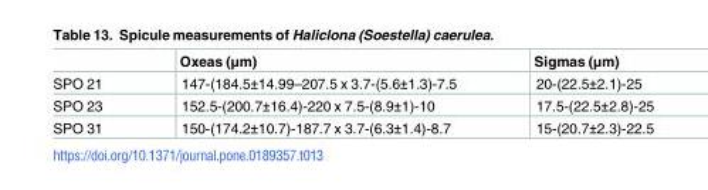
<table><thead><tr><td></td><td>Oxeas (μm)</td><td>Sigmas (μm)</td></tr></thead><tbody><tr><td>SPO 21</td><td>147-(184.5±14.99–207.5 x 3.7-(5.6±1.3)-7.5</td><td>20-(22.5±2.1)-25</td></tr><tr><td>SPO 23</td><td>152.5-(200.7±16.4)-220 x 7.5-(8.9±1)-10</td><td>17.5-(22.5±2.8)-25</td></tr><tr><td>SPO 31</td><td>150-(174.2±10.7)-187.7 x 3.7-(6.3±1.4)-8.7</td><td>15-(20.7±2.3)-22.5</td></tr></tbody></table>